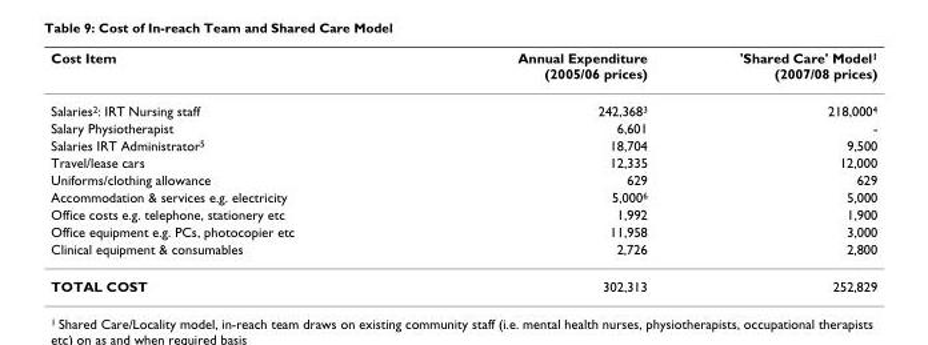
<table><thead><tr><td>Cost Item</td><td>Annual Expenditure (2005/06 prices)</td><td>&#x27;Shared Care&#x27; Model<sup>1</sup> (2007/08 prices)</td></tr></thead><tbody><tr><td>Salaries<sup>2</sup>: IRT Nursing staff</td><td>242,368<sup>3</sup></td><td>218,000<sup>4</sup></td></tr><tr><td>Salary Physiotherapist</td><td>6,601</td><td>-</td></tr><tr><td>Salaries IRT Administrator<sup>5</sup></td><td>18,704</td><td>9,500</td></tr><tr><td>Travel/lease cars</td><td>12,335</td><td>12,000</td></tr><tr><td>Uniforms/clothing allowance</td><td>629</td><td>629</td></tr><tr><td>Accommodation &amp; services e.g. electricity</td><td>5,000<sup>6</sup></td><td>5,000</td></tr><tr><td>Office costs e.g. telephone, stationery etc</td><td>1,992</td><td>1,900</td></tr><tr><td>Office equipment e.g. PCs, photocopier etc</td><td>11,958</td><td>3,000</td></tr><tr><td>Clinical equipment &amp; consumables</td><td>2,726</td><td>2,800</td></tr><tr><td>TOTAL COST</td><td>302,313</td><td>252,829</td></tr></tbody></table>